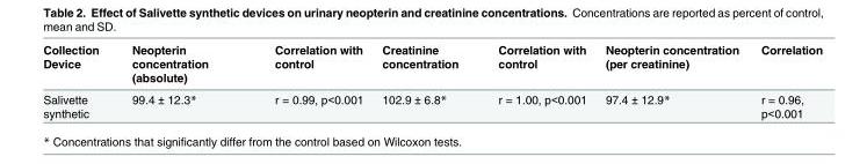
<table><thead><tr><td>Collection Device</td><td>Neopterin concentration (absolute)</td><td>Correlation with control</td><td>Creatinine concentration</td><td>Correlation with control</td><td>Neopterin concentration (per creatinine)</td><td>Correlation</td></tr></thead><tbody><tr><td>Salivette synthetic</td><td>99.4 ± 12.3*</td><td>r = 0.99, p&lt;0.001</td><td>102.9 ± 6.8*</td><td>r = 1.00, p&lt;0.001</td><td>97.4 ± 12.9*</td><td>r = 0.96, p&lt;0.001</td></tr></tbody></table>